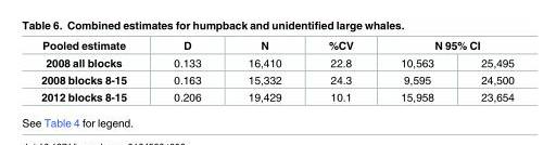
<table><thead><tr><td rowspan="2">Pooled estimate 2008 all blocks</td><td rowspan="2">D 0.133</td><td rowspan="2">N 16,410</td><td rowspan="2">%CV 22.8</td><td colspan="2">N 95% CI</td></tr><tr><td>10,563</td><td>25,495</td></tr></thead><tbody><tr><td>2008 blocks 8-15</td><td>0.163</td><td>15,332</td><td>24.3</td><td>9,595</td><td>24,500</td></tr><tr><td>2012 blocks 8-15</td><td>0.206</td><td>19,429</td><td>10.1</td><td>15,958</td><td>23,654</td></tr></tbody></table>